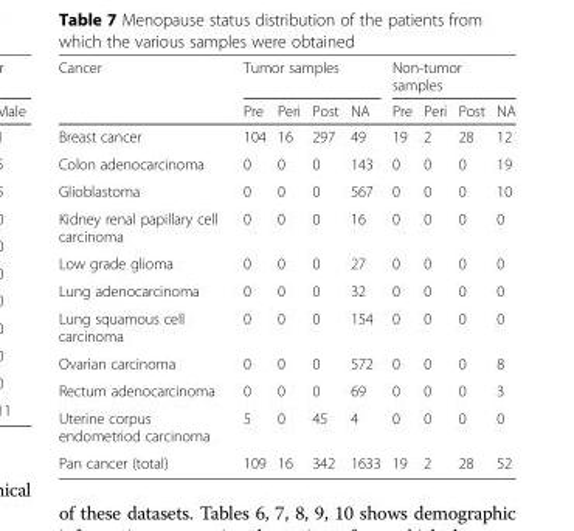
<table><thead><tr><td rowspan="2">Cancer</td><td colspan="4">Tumor samples</td><td colspan="4">Non-tumor samples</td></tr><tr><td>Pre</td><td>Peri</td><td>Post</td><td>NA</td><td>Pre</td><td>Peri</td><td>Post</td><td>NA</td></tr></thead><tbody><tr><td>Breast cancer</td><td>104</td><td>16</td><td>297</td><td>49</td><td>19</td><td>2</td><td>28</td><td>12</td></tr><tr><td>Colon adenocarcinoma</td><td>0</td><td>0</td><td>0</td><td>143</td><td>0</td><td>0</td><td>0</td><td>19</td></tr><tr><td>Glioblastoma</td><td>0</td><td>0</td><td>0</td><td>567</td><td>0</td><td>0</td><td>0</td><td>10</td></tr><tr><td>Kidney renal papillary cell carcinoma</td><td>0</td><td>0</td><td>0</td><td>16</td><td>0</td><td>0</td><td>0</td><td>0</td></tr><tr><td>Low grade glioma</td><td>0</td><td>0</td><td>0</td><td>27</td><td>0</td><td>0</td><td>0</td><td>0</td></tr><tr><td>Lung adenocarcinoma</td><td>0</td><td>0</td><td>0</td><td>32</td><td>0</td><td>0</td><td>0</td><td>0</td></tr><tr><td>Lung squamous cell carcinoma</td><td>0</td><td>0</td><td>0</td><td>154</td><td>0</td><td>0</td><td>0</td><td>0</td></tr><tr><td>Ovarian carcinoma</td><td>0</td><td>0</td><td>0</td><td>572</td><td>0</td><td>0</td><td>0</td><td>8</td></tr><tr><td>Rectum adenocarcinoma</td><td>0</td><td>0</td><td>0</td><td>69</td><td>0</td><td>0</td><td>0</td><td>3</td></tr><tr><td>Uterine corpus endometriod carcinoma</td><td>5</td><td>0</td><td>45</td><td>4</td><td>0</td><td>0</td><td>0</td><td>0</td></tr><tr><td>Pan cancer (total)</td><td>109</td><td>16</td><td>342</td><td>1633</td><td>19</td><td>2</td><td>28</td><td>52</td></tr></tbody></table>